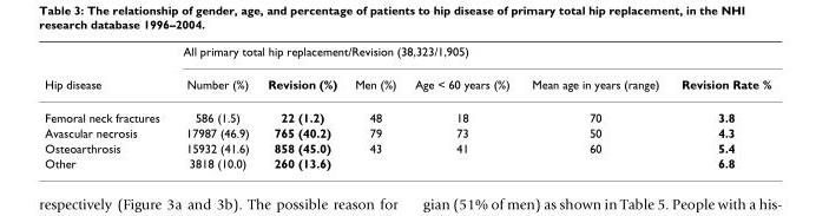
<table><thead><tr><td rowspan="2">Hip disease</td><td colspan="6">All primary total hip replacement/Revision (38,323/1,905)</td></tr><tr><td>Number (%)</td><td>Revision (%)</td><td>Men (%)</td><td>Age &lt; 60 years (%)</td><td>Mean age in years (range)</td><td>Revision Rate %</td></tr></thead><tbody><tr><td>Femoral neck fractures</td><td>586 (1.5)</td><td>22 (1.2)</td><td>48</td><td>18</td><td>70</td><td>3.8</td></tr><tr><td>Avascular necrosis</td><td>17987 (46.9)</td><td>765 (40.2)</td><td>79</td><td>73</td><td>50</td><td>4.3</td></tr><tr><td>Osteoarthrosis</td><td>15932 (41.6)</td><td>858 (45.0)</td><td>43</td><td>41</td><td>60</td><td>5.4</td></tr><tr><td>Other</td><td>3818 (10.0)</td><td>260 (13.6)</td><td></td><td></td><td></td><td>6.8</td></tr></tbody></table>